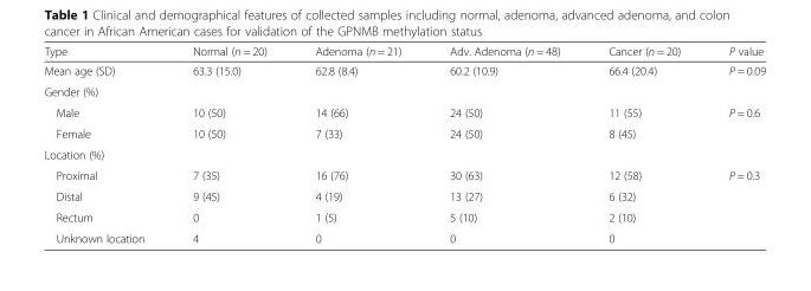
<table><thead><tr><td>Type</td><td>Normal (n = 20)</td><td>Adenoma (n = 21)</td><td>Adv. Adenoma (n = 48)</td><td>Cancer (n = 20)</td><td>P value</td></tr></thead><tbody><tr><td>Mean age (SD)</td><td>63.3 (15.0)</td><td>62.8 (8.4)</td><td>60.2 (10.9)</td><td>66.4 (20.4)</td><td>P = 0.09</td></tr><tr><td colspan="6">Gender (%)</td></tr><tr><td>Male</td><td>10 (50)</td><td>14 (66)</td><td>24 (50)</td><td>11 (55)</td><td rowspan="2">P = 0.6</td></tr><tr><td>Female</td><td>10 (50)</td><td>7 (33)</td><td>24 (50)</td><td>8 (45)</td></tr><tr><td colspan="6">Location (%)</td></tr><tr><td>Proximal</td><td>7 (35)</td><td>16 (76)</td><td>30 (63)</td><td>12 (58)</td><td rowspan="3">P = 0.3</td></tr><tr><td>Distal</td><td>9 (45)</td><td>4 (19)</td><td>13 (27)</td><td>6 (32)</td></tr><tr><td>Rectum</td><td>0</td><td>1 (5)</td><td>5 (10)</td><td>2 (10)</td></tr><tr><td>Unknown location</td><td>4</td><td>0</td><td>0</td><td>0</td><td></td></tr></tbody></table>